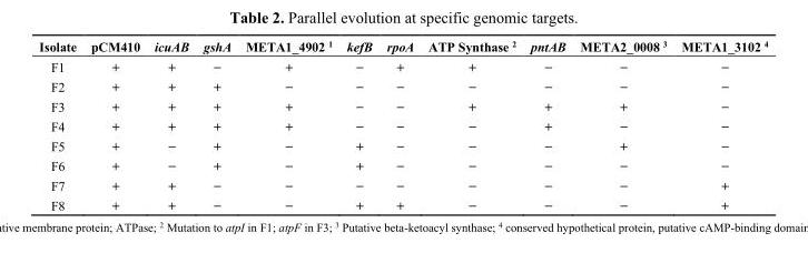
<table><thead><tr><td>Isolate</td><td>pCM410</td><td>icuAB</td><td>gshA</td><td>META1_4902 <sup>1</sup></td><td>kefB</td><td>rpoA</td><td>ATP Synthase <sup>2</sup></td><td>pntAB</td><td>META2_0008 <sup>3</sup></td><td>META1_3102 <sup>4</sup></td></tr></thead><tbody><tr><td>F1</td><td>+</td><td>+</td><td>−</td><td>+</td><td>−</td><td>+</td><td>+</td><td>−</td><td>−</td><td>−</td></tr><tr><td>F2</td><td>+</td><td>+</td><td>+</td><td>−</td><td>−</td><td>−</td><td>−</td><td>−</td><td>−</td><td>−</td></tr><tr><td>F3</td><td>+</td><td>+</td><td>+</td><td>+</td><td>−</td><td>−</td><td>+</td><td>+</td><td>+</td><td>−</td></tr><tr><td>F4</td><td>+</td><td>+</td><td>+</td><td>+</td><td>−</td><td>−</td><td>−</td><td>+</td><td>−</td><td>−</td></tr><tr><td>F5</td><td>+</td><td>−</td><td>+</td><td>−</td><td>+</td><td>−</td><td>−</td><td>−</td><td>+</td><td>−</td></tr><tr><td>F6</td><td>+</td><td>−</td><td>+</td><td>−</td><td>+</td><td>−</td><td>−</td><td>−</td><td>−</td><td>−</td></tr><tr><td>F7</td><td>+</td><td>+</td><td>−</td><td>−</td><td>−</td><td>−</td><td>−</td><td>−</td><td>−</td><td>+</td></tr><tr><td>F8</td><td>+</td><td>+</td><td>−</td><td>−</td><td>+</td><td>+</td><td>−</td><td>−</td><td>−</td><td>+</td></tr></tbody></table>